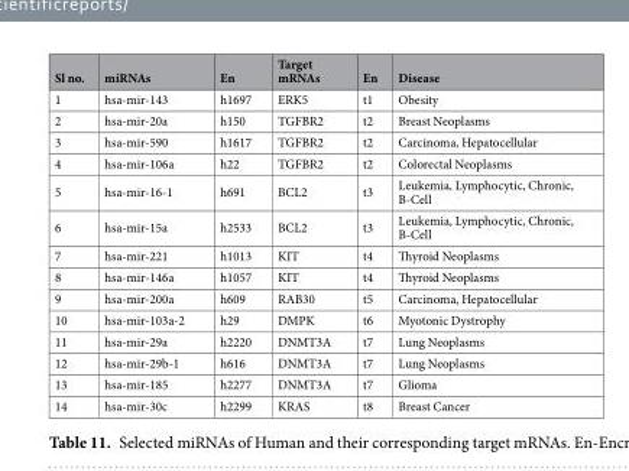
<table><thead><tr><td>Sl no.</td><td>miRNAs</td><td>En</td><td>Target mRNAs</td><td>En</td><td>Disease</td></tr></thead><tbody><tr><td>1</td><td>hsa-mir-143</td><td>h1697</td><td>ERK5</td><td>t1</td><td>Obesity</td></tr><tr><td>2</td><td>hsa-mir-20a</td><td>h150</td><td>TGFBR2</td><td>t2</td><td>Breast Neoplasms</td></tr><tr><td>3</td><td>hsa-mir-590</td><td>h1617</td><td>TGFBR2</td><td>t2</td><td>Carcinoma, Hepatocellular</td></tr><tr><td>4</td><td>hsa-mir-106a</td><td>h22</td><td>TGFBR2</td><td>t2</td><td>Colorectal Neoplasms</td></tr><tr><td>5</td><td>hsa-mir-16-1</td><td>h691</td><td>BCL2</td><td>t3</td><td>Leukemia, Lymphocytic, Chronic, B-Cell</td></tr><tr><td>6</td><td>hsa-mir-15a</td><td>h2533</td><td>BCL2</td><td>t3</td><td>Leukemia, Lymphocytic, Chronic, B-Cell</td></tr><tr><td>7</td><td>hsa-mir-221</td><td>h1013</td><td>KIT</td><td>t4</td><td>Thyroid Neoplasms</td></tr><tr><td>8</td><td>hsa-mir-146a</td><td>h1057</td><td>KIT</td><td>t4</td><td>Thyroid Neoplasms</td></tr><tr><td>9</td><td>hsa-mir-200a</td><td>h609</td><td>RAB30</td><td>t5</td><td>Carcinoma, Hepatocellular</td></tr><tr><td>10</td><td>hsa-mir-103a-2</td><td>h29</td><td>DMPK</td><td>t6</td><td>Myotonic Dystrophy</td></tr><tr><td>11</td><td>hsa-mir-29a</td><td>h2220</td><td>DNMT3A</td><td>t7</td><td>Lung Neoplasms</td></tr><tr><td>12</td><td>hsa-mir-29b-1</td><td>h616</td><td>DNMT3A</td><td>t7</td><td>Lung Neoplasms</td></tr><tr><td>13</td><td>hsa-mir-185</td><td>h2277</td><td>DNMT3A</td><td>t7</td><td>Glioma</td></tr><tr><td>14</td><td>hsa-mir-30c</td><td>h2299</td><td>KRAS</td><td>t8</td><td>Breast Cancer</td></tr></tbody></table>